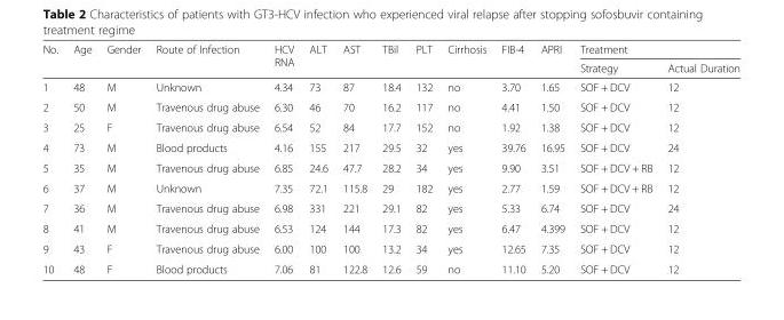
<table><thead><tr><td rowspan="2">No.</td><td rowspan="2">Age</td><td rowspan="2">Gender</td><td rowspan="2">Route of Infection</td><td rowspan="2">HCV RNA</td><td rowspan="2">ALT</td><td rowspan="2">AST</td><td rowspan="2">TBil</td><td rowspan="2">PLT</td><td rowspan="2">Cirrhosis</td><td rowspan="2">FIB-4</td><td rowspan="2">APRI</td><td colspan="2">Treatment</td></tr><tr><td>Strategy</td><td>Actual Duration</td></tr></thead><tbody><tr><td>1</td><td>48</td><td>M</td><td>Unknown</td><td>4.34</td><td>73</td><td>87</td><td>18.4</td><td>132</td><td>no</td><td>3.70</td><td>1.65</td><td>SOF + DCV</td><td>12</td></tr><tr><td>2</td><td>50</td><td>M</td><td>Travenous drug abuse</td><td>6.30</td><td>46</td><td>70</td><td>16.2</td><td>117</td><td>no</td><td>4.41</td><td>1.50</td><td>SOF + DCV</td><td>12</td></tr><tr><td>3</td><td>25</td><td>F</td><td>Travenous drug abuse</td><td>6.54</td><td>52</td><td>84</td><td>17.7</td><td>152</td><td>no</td><td>1.92</td><td>1.38</td><td>SOF + DCV</td><td>12</td></tr><tr><td>4</td><td>73</td><td>M</td><td>Blood products</td><td>4.16</td><td>155</td><td>217</td><td>29.5</td><td>32</td><td>yes</td><td>39.76</td><td>16.95</td><td>SOF + DCV</td><td>24</td></tr><tr><td>5</td><td>35</td><td>M</td><td>Travenous drug abuse</td><td>6.85</td><td>24.6</td><td>47.7</td><td>28.2</td><td>34</td><td>yes</td><td>9.90</td><td>3.51</td><td>SOF + DCV + RB</td><td>12</td></tr><tr><td>6</td><td>37</td><td>M</td><td>Unknown</td><td>7.35</td><td>72.1</td><td>115.8</td><td>29</td><td>182</td><td>yes</td><td>2.77</td><td>1.59</td><td>SOF + DCV + RB</td><td>12</td></tr><tr><td>7</td><td>36</td><td>M</td><td>Travenous drug abuse</td><td>6.98</td><td>331</td><td>221</td><td>29.1</td><td>82</td><td>yes</td><td>5.33</td><td>6.74</td><td>SOF + DCV</td><td>24</td></tr><tr><td>8</td><td>41</td><td>M</td><td>Travenous drug abuse</td><td>6.53</td><td>124</td><td>144</td><td>17.3</td><td>82</td><td>yes</td><td>6.47</td><td>4.399</td><td>SOF + DCV</td><td>12</td></tr><tr><td>9</td><td>43</td><td>F</td><td>Travenous drug abuse</td><td>6.00</td><td>100</td><td>100</td><td>13.2</td><td>34</td><td>yes</td><td>12.65</td><td>7.35</td><td>SOF + DCV</td><td>12</td></tr><tr><td>10</td><td>48</td><td>F</td><td>Blood products</td><td>7.06</td><td>81</td><td>122.8</td><td>12.6</td><td>59</td><td>no</td><td>11.10</td><td>5.20</td><td>SOF + DCV</td><td>12</td></tr></tbody></table>